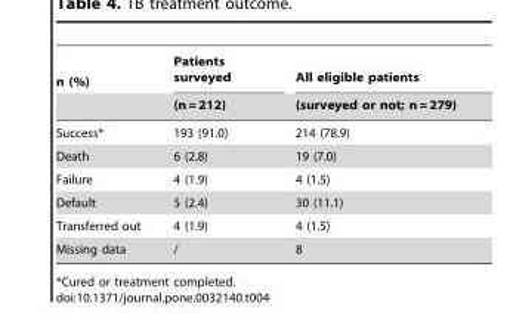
<table><thead><tr><td rowspan="2">n (%)</td><td rowspan="2">Patients surveyed (n = 212)</td><td rowspan="2">All eligible patients (surveyed or not; n = 279)</td></tr><tr></tr></thead><tbody><tr><td>Success*</td><td>193 (91.0)</td><td>214 (78.9)</td></tr><tr><td>Death</td><td>6 (2.8)</td><td>19 (7.0)</td></tr><tr><td>Failure</td><td>4 (1.9)</td><td>4 (1.5)</td></tr><tr><td>Default</td><td>5 (2.4)</td><td>30 (11.1)</td></tr><tr><td>Transferred out</td><td>4 (1.9)</td><td>4 (1.5)</td></tr><tr><td>Missing data</td><td>/</td><td>8</td></tr></tbody></table>